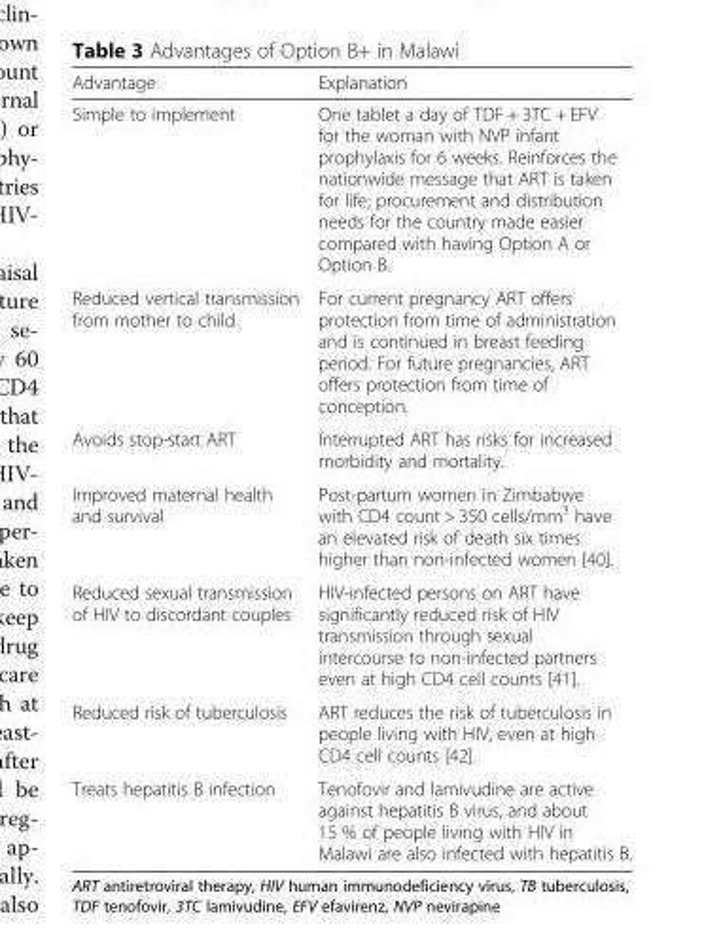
<table><thead><tr><td>Advantage</td><td>Explanation</td></tr></thead><tbody><tr><td>Simple to implement</td><td>One tablet a day of TDF + 3TC + EFV for the woman with NVP infant prophylaxis for 6 weeks. Reinforces the nationwide message that ART is taken for life; procurement and distribution needs for the country made easier compared with having Option A or Option B.</td></tr><tr><td>Reduced vertical transmission from mother to child</td><td>For current pregnancy ART offers protection from time of administration and is continued in breast feeding period. For future pregnancies, ART offers protection from time of conception.</td></tr><tr><td>Avoids stop-start ART</td><td>Interrupted ART has risks for increased morbidity and mortality.</td></tr><tr><td>Improved maternal health and survival</td><td>Post-partum women in Zimbabwe with CD4 count &gt; 350 cells/mm<sup>3</sup> have an elevated risk of death six times higher than non-infected women [40].</td></tr><tr><td>Reduced sexual transmission of HIV to discordant couples</td><td>HIV-infected persons on ART have significantly reduced risk of HIV transmission through sexual intercourse to non-infected partners even at high CD4 cell counts [41].</td></tr><tr><td>Reduced risk of tuberculosis</td><td>ART reduces the risk of tuberculosis in people living with HIV, even at high CD4 cell counts [42].</td></tr><tr><td>Treats hepatitis B infection</td><td>Tenofovir and lamivudine are active against hepatitis B virus, and about 15 % of people living with HIV in Malawi are also infected with hepatitis B.</td></tr></tbody></table>